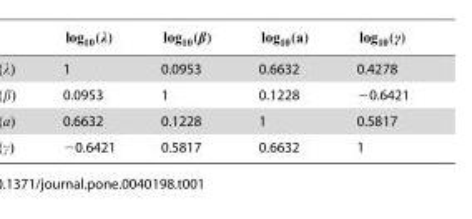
<table><tbody><tr><td>1</td><td>0.0953</td><td>0.6632</td><td>0.4278</td></tr><tr><td>0.0953</td><td>1</td><td>0.1228</td><td>−0.6421</td></tr><tr><td>0.6632</td><td>0.1228</td><td>1</td><td>0.5817</td></tr><tr><td>−0.6421</td><td>0.5817</td><td>0.6632</td><td>1</td></tr></tbody></table>